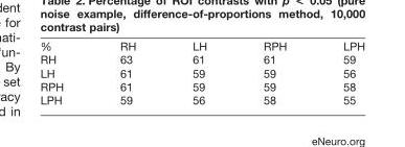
<table><thead><tr><td>%</td><td>RH</td><td>LH</td><td>RPH</td><td>LPH</td></tr></thead><tbody><tr><td>RH</td><td>63</td><td>61</td><td>61</td><td>59</td></tr><tr><td>LH</td><td>61</td><td>59</td><td>59</td><td>56</td></tr><tr><td>RPH</td><td>61</td><td>59</td><td>59</td><td>58</td></tr><tr><td>LPH</td><td>59</td><td>56</td><td>58</td><td>55</td></tr></tbody></table>